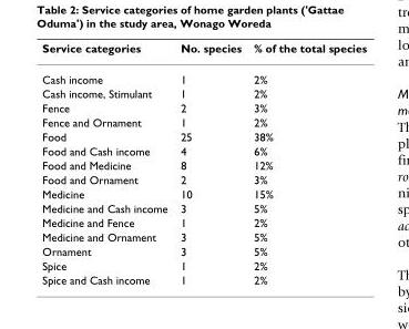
<table><thead><tr><td>Service categories</td><td>No. species</td><td>% of the total species</td></tr></thead><tbody><tr><td>Cash income</td><td>1</td><td>2%</td></tr><tr><td>Cash income, Stimulant</td><td>1</td><td>2%</td></tr><tr><td>Fence</td><td>2</td><td>3%</td></tr><tr><td>Fence and Ornament</td><td>1</td><td>2%</td></tr><tr><td>Food</td><td>25</td><td>38%</td></tr><tr><td>Food and Cash income</td><td>4</td><td>6%</td></tr><tr><td>Food and Medicine</td><td>8</td><td>12%</td></tr><tr><td>Food and Ornament</td><td>2</td><td>3%</td></tr><tr><td>Medicine</td><td>10</td><td>15%</td></tr><tr><td>Medicine and Cash income</td><td>3</td><td>5%</td></tr><tr><td>Medicine and Fence</td><td>1</td><td>2%</td></tr><tr><td>Medicine and Ornament</td><td>3</td><td>5%</td></tr><tr><td>Ornament</td><td>3</td><td>5%</td></tr><tr><td>Spice</td><td>1</td><td>2%</td></tr><tr><td>Spice and Cash income</td><td>1</td><td>2%</td></tr></tbody></table>